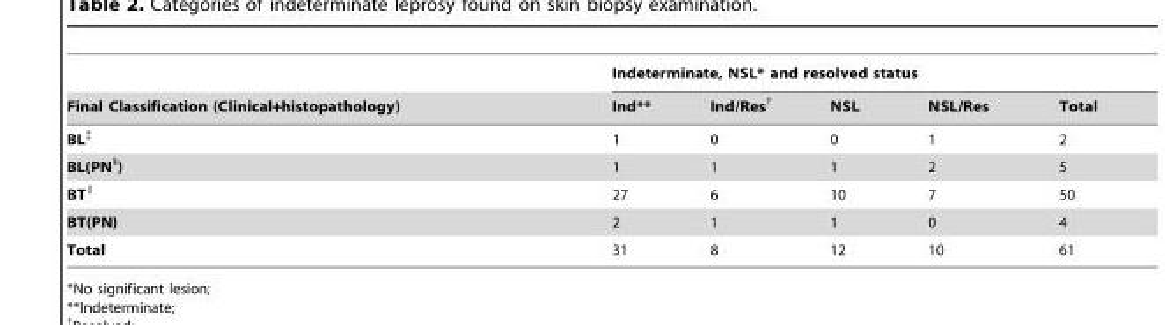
<table><thead><tr><td rowspan="2">Final Classification (Clinical+histopathology)</td><td colspan="5">Indeterminate, NSL* and resolved status</td></tr><tr><td>Ind**</td><td>Ind/Res†</td><td>NSL</td><td>NSL/Res</td><td>Total</td></tr></thead><tbody><tr><td>BL‡</td><td>1</td><td>0</td><td>0</td><td>1</td><td>2</td></tr><tr><td>BL(PN§)</td><td>1</td><td>1</td><td>1</td><td>2</td><td>5</td></tr><tr><td>BT∥</td><td>27</td><td>6</td><td>10</td><td>7</td><td>50</td></tr><tr><td>BT(PN)</td><td>2</td><td>1</td><td>1</td><td>0</td><td>4</td></tr><tr><td>Total</td><td>31</td><td>8</td><td>12</td><td>10</td><td>61</td></tr></tbody></table>